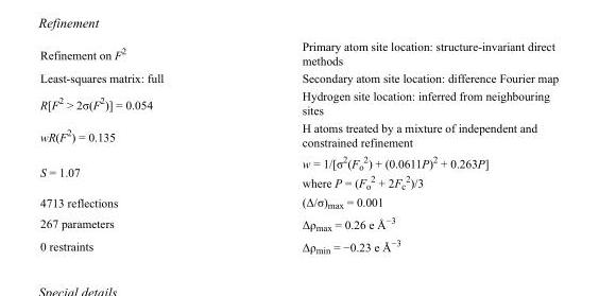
<table><tbody><tr><td>Refinement on F<sup>2</sup></td><td>Primary atom site location: structure-invariant direct methods</td></tr><tr><td>Least-squares matrix: full</td><td>Secondary atom site location: difference Fourier map</td></tr><tr><td>R[F<sup>2</sup> &gt; 2σ(F<sup>2</sup>)] = 0.054</td><td>Hydrogen site location: inferred from neighbouring sites</td></tr><tr><td>wR(F<sup>2</sup>) = 0.135</td><td>H atoms treated by a mixture of independent and constrained refinement</td></tr><tr><td>S = 1.07</td><td>w = 1/[σ<sup>2</sup>(F<sub>o</sub> <sup>2</sup>) + (0.0611P)<sup>2</sup> + 0.263P] where P = (F<sub>o</sub> <sup>2</sup> + 2F<sub>c</sub> <sup>2</sup>)/3</td></tr><tr><td>4713 reflections</td><td>(Δ/σ)<sub>max</sub> = 0.001</td></tr><tr><td>267 parameters</td><td>Δρ<sub>max</sub> = 0.26 e Å<sup>−3</sup></td></tr><tr><td>0 restraints</td><td>Δρ<sub>min</sub> = −0.23 e Å<sup>−3</sup></td></tr></tbody></table>